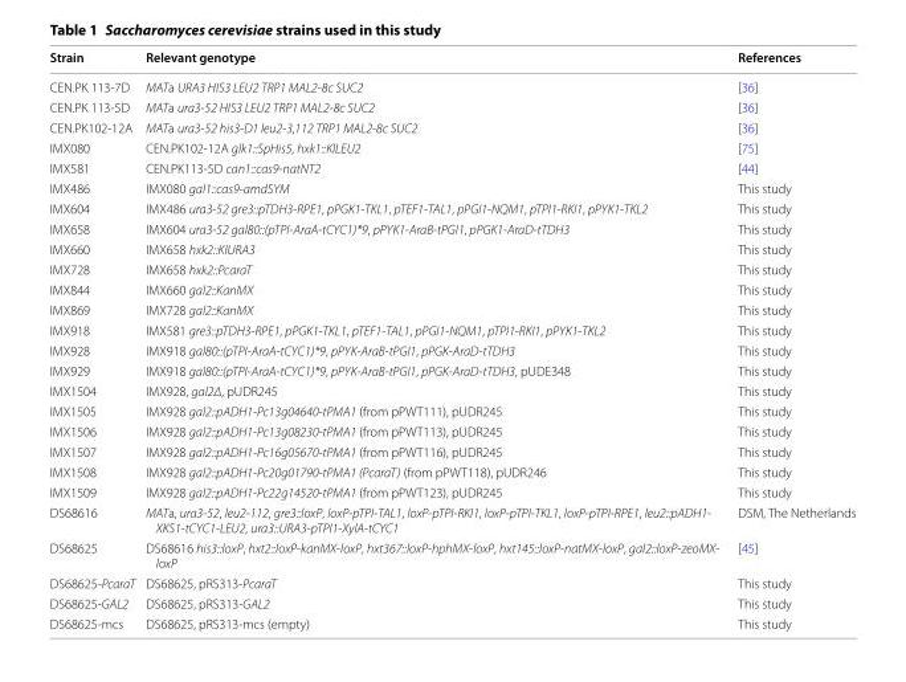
<table><thead><tr><td>Strain</td><td>Relevant genotype</td><td>References</td></tr></thead><tbody><tr><td>CEN.PK 113‑7D</td><td>MATa URA3 HIS3 LEU2 TRP1 MAL2‑8c SUC2</td><td>[36]</td></tr><tr><td>CEN.PK 113‑5D</td><td>MATa ura3‑52 HIS3 LEU2 TRP1 MAL2‑8c SUC2</td><td>[36]</td></tr><tr><td>CEN.PK102‑12A</td><td>MATa ura3‑52 his3‑D1 leu2‑3,112 TRP1 MAL2‑8c SUC2</td><td>[36]</td></tr><tr><td>IMX080</td><td>CEN.PK102‑12A glk1::SpHis5, hxk1::KlLEU2</td><td>[75]</td></tr><tr><td>IMX581</td><td>CEN.PK113‑5D can1::cas9‑natNT2</td><td>[44]</td></tr><tr><td>IMX486</td><td>IMX080 gal1::cas9‑amdSYM</td><td>This study</td></tr><tr><td>IMX604</td><td>IMX486 ura3‑52 gre3::pTDH3‑RPE1, pPGK1‑TKL1, pTEF1‑TAL1, pPGI1‑NQM1, pTPI1‑RKI1, pPYK1‑TKL2</td><td>This study</td></tr><tr><td>IMX658</td><td>IMX604 ura3‑52 gal80::(pTPI‑AraA‑tCYC1)*9, pPYK1‑AraB‑tPGI1, pPGK1‑AraD‑tTDH3</td><td>This study</td></tr><tr><td>IMX660</td><td>IMX658 hxk2::KlURA3</td><td>This study</td></tr><tr><td>IMX728</td><td>IMX658 hxk2::PcaraT</td><td>This study</td></tr><tr><td>IMX844</td><td>IMX660 gal2::KanMX</td><td>This study</td></tr><tr><td>IMX869</td><td>IMX728 gal2::KanMX</td><td>This study</td></tr><tr><td>IMX918</td><td>IMX581 gre3::pTDH3‑RPE1, pPGK1‑TKL1, pTEF1‑TAL1, pPGI1‑NQM1, pTPI1‑RKI1, pPYK1‑TKL2</td><td>This study</td></tr><tr><td>IMX928</td><td>IMX918 gal80::(pTPI‑AraA‑tCYC1)*9, pPYK‑AraB‑tPGI1, pPGK‑AraD‑tTDH3</td><td>This study</td></tr><tr><td>IMX929</td><td>IMX918 gal80::(pTPI‑AraA‑tCYC1)*9, pPYK‑AraB‑tPGI1, pPGK‑AraD‑tTDH3, pUDE348</td><td>This study</td></tr><tr><td>IMX1504</td><td>IMX928, gal2Δ, pUDR245</td><td>This study</td></tr><tr><td>IMX1505</td><td>IMX928 gal2::pADH1-Pc13g04640-tPMA1 (from pPWT111), pUDR245</td><td>This study</td></tr><tr><td>IMX1506</td><td>IMX928 gal2::pADH1-Pc13g08230-tPMA1 (from pPWT113), pUDR245</td><td>This study</td></tr><tr><td>IMX1507</td><td>IMX928 gal2::pADH1-Pc16g05670-tPMA1 (from pPWT116), pUDR245</td><td>This study</td></tr><tr><td>IMX1508</td><td>IMX928 gal2::pADH1-Pc20g01790-tPMA1 (PcaraT) (from pPWT118), pUDR246</td><td>This study</td></tr><tr><td>IMX1509</td><td>IMX928 gal2::pADH1-Pc22g14520-tPMA1 (from pPWT123), pUDR245</td><td>This study</td></tr><tr><td>DS68616</td><td>MATa, ura3‑52, leu2‑112, gre3::loxP, loxP‑pTPI‑TAL1, loxP‑pTPI‑RKI1, loxP‑pTPI‑TKL1, loxP‑pTPI‑RPE1, leu2::pADH1‑ XKS1‑tCYC1‑LEU2, ura3::URA3‑pTPI1‑XylA‑tCYC1</td><td>DSM, The Netherlands</td></tr><tr><td>DS68625</td><td>DS68616 his3::loxP, hxt2::loxP‑kanMX‑loxP, hxt367::loxP‑hphMX‑loxP, hxt145::loxP‑natMX‑loxP, gal2::loxP‑zeoMX‑ loxP</td><td>[45]</td></tr><tr><td>DS68625‑PcaraT</td><td>DS68625, pRS313‑PcaraT</td><td>This study</td></tr><tr><td>DS68625‑GAL2</td><td>DS68625, pRS313‑GAL2</td><td>This study</td></tr><tr><td>DS68625‑mcs</td><td>DS68625, pRS313‑mcs (empty)</td><td>This study</td></tr></tbody></table>